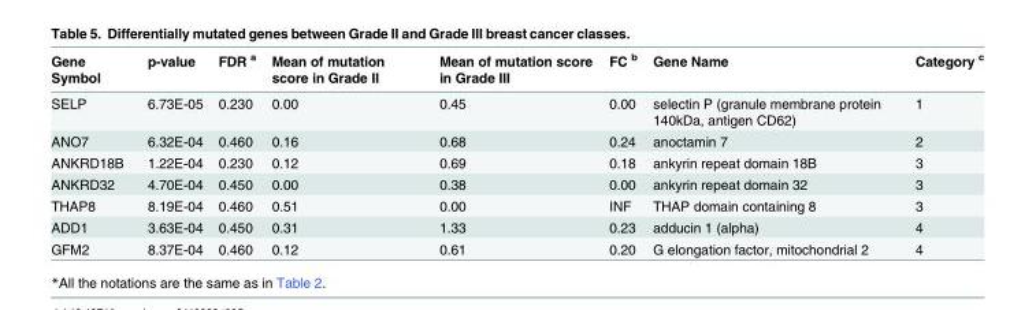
<table><thead><tr><td>Gene Symbol</td><td>p-value</td><td>FDR <sup>a</sup></td><td>Mean of mutation score in Grade II</td><td>Mean of mutation score in Grade III</td><td>FC <sup>b</sup></td><td>Gene Name</td><td>Category <sup>c</sup></td></tr></thead><tbody><tr><td>SELP</td><td>6.73E-05</td><td>0.230</td><td>0.00</td><td>0.45</td><td>0.00</td><td>selectin P (granule membrane protein 140kDa, antigen CD62)</td><td>1</td></tr><tr><td>ANO7</td><td>6.32E-04</td><td>0.460</td><td>0.16</td><td>0.68</td><td>0.24</td><td>anoctamin 7</td><td>2</td></tr><tr><td>ANKRD18B</td><td>1.22E-04</td><td>0.230</td><td>0.12</td><td>0.69</td><td>0.18</td><td>ankyrin repeat domain 18B</td><td>3</td></tr><tr><td>ANKRD32</td><td>4.70E-04</td><td>0.450</td><td>0.00</td><td>0.38</td><td>0.00</td><td>ankyrin repeat domain 32</td><td>3</td></tr><tr><td>THAP8</td><td>8.19E-04</td><td>0.460</td><td>0.51</td><td>0.00</td><td>INF</td><td>THAP domain containing 8</td><td>3</td></tr><tr><td>ADD1</td><td>3.63E-04</td><td>0.450</td><td>0.31</td><td>1.33</td><td>0.23</td><td>adducin 1 (alpha)</td><td>4</td></tr><tr><td>GFM2</td><td>8.37E-04</td><td>0.460</td><td>0.12</td><td>0.61</td><td>0.20</td><td>G elongation factor, mitochondrial 2</td><td>4</td></tr></tbody></table>